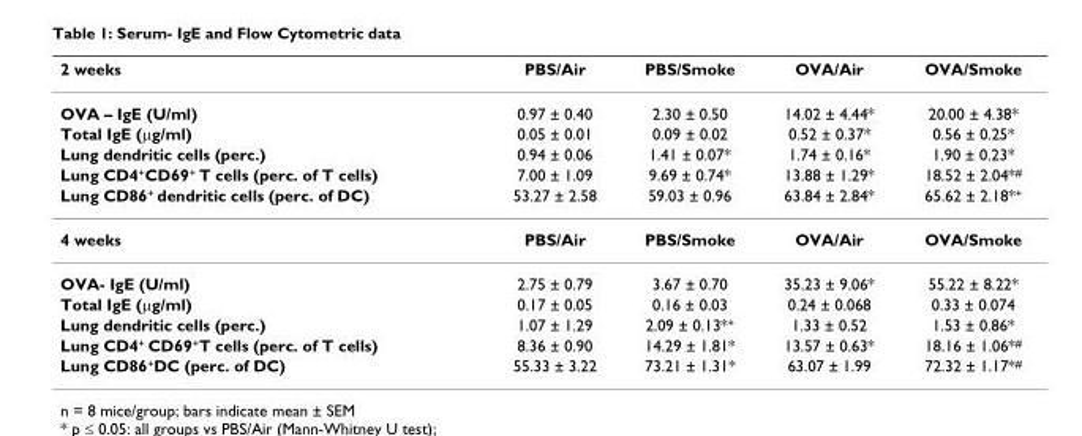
<table><thead><tr><td>2 weeks</td><td>PBS/Air</td><td>PBS/Smoke</td><td>OVA/Air</td><td>OVA/Smoke</td></tr></thead><tbody><tr><td>OVA – IgE (U/ml)</td><td>0.97 ± 0.40</td><td>2.30 ± 0.50</td><td>14.02 ± 4.44*</td><td>20.00 ± 4.38*</td></tr><tr><td>Total IgE (µg/ml)</td><td>0.05 ± 0.01</td><td>0.09 ± 0.02</td><td>0.52 ± 0.37*</td><td>0.56 ± 0.25*</td></tr><tr><td>Lung dendritic cells (perc.)</td><td>0.94 ± 0.06</td><td>1.41 ± 0.07*</td><td>1.74 ± 0.16*</td><td>1.90 ± 0.23*</td></tr><tr><td>Lung CD4<sup>+</sup>CD69<sup>+</sup> T cells (perc. of T cells)</td><td>7.00 ± 1.09</td><td>9.69 ± 0.74*</td><td>13.88 ± 1.29*</td><td>18.52 ± 2.04*<sup>#</sup></td></tr><tr><td>Lung CD86<sup>+</sup> dendritic cells (perc. of DC)</td><td>53.27 ± 2.58</td><td>59.03 ± 0.96</td><td>63.84 ± 2.84*</td><td>65.62 ± 2.18*<sup>+</sup></td></tr><tr><td>4 weeks</td><td>PBS/Air</td><td>PBS/Smoke</td><td>OVA/Air</td><td>OVA/Smoke</td></tr><tr><td>OVA- IgE (U/ml)</td><td>2.75 ± 0.79</td><td>3.67 ± 0.70</td><td>35.23 ± 9.06*</td><td>55.22 ± 8.22*</td></tr><tr><td>Total IgE (µg/ml)</td><td>0.17 ± 0.05</td><td>0.16 ± 0.03</td><td>0.24 ± 0.068</td><td>0.33 ± 0.074</td></tr><tr><td>Lung dendritic cells (perc.)</td><td>1.07 ± 1.29</td><td>2.09 ± 0.13*<sup>+</sup></td><td>1.33 ± 0.52</td><td>1.53 ± 0.86*</td></tr><tr><td>Lung CD4<sup>+</sup> CD69<sup>+</sup>T cells (perc. of T cells)</td><td>8.36 ± 0.90</td><td>14.29 ± 1.81*</td><td>13.57 ± 0.63*</td><td>18.16 ± 1.06*<sup>#</sup></td></tr><tr><td>Lung CD86<sup>+</sup>DC (perc. of DC)</td><td>55.33 ± 3.22</td><td>73.21 ± 1.31*</td><td>63.07 ± 1.99</td><td>72.32 ± 1.17*<sup>#</sup></td></tr></tbody></table>